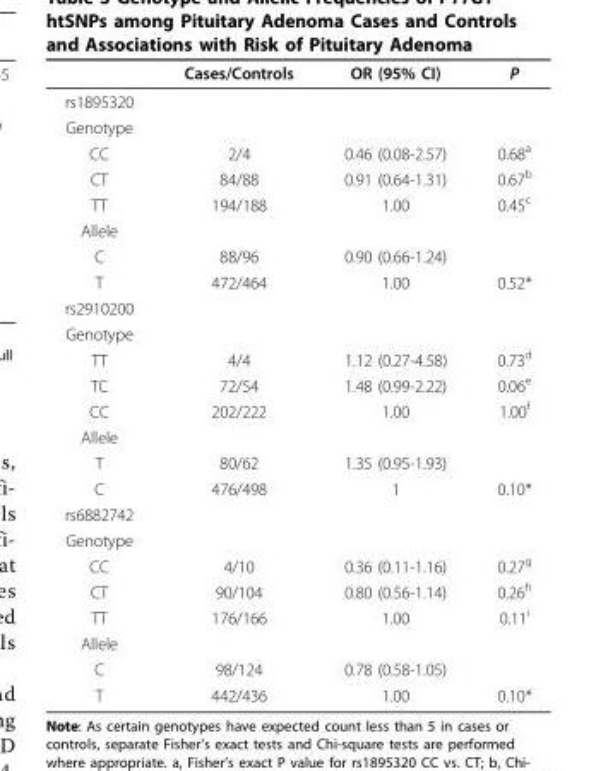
<table><thead><tr><td></td><td>Cases/Controls</td><td>OR (95% CI)</td><td>P</td></tr></thead><tbody><tr><td colspan="4">rs1895320</td></tr><tr><td colspan="4">Genotype</td></tr><tr><td>CC</td><td>2/4</td><td>0.46 (0.08-2.57)</td><td>0.68<sup>a</sup></td></tr><tr><td>CT</td><td>84/88</td><td>0.91 (0.64-1.31)</td><td>0.67<sup>b</sup></td></tr><tr><td>TT</td><td>194/188</td><td>1.00</td><td>0.45<sup>c</sup></td></tr><tr><td colspan="4">Allele</td></tr><tr><td>C</td><td>88/96</td><td>0.90 (0.66-1.24)</td><td></td></tr><tr><td>T</td><td>472/464</td><td>1.00</td><td>0.52*</td></tr><tr><td colspan="4">rs2910200</td></tr><tr><td colspan="4">Genotype</td></tr><tr><td>TT</td><td>4/4</td><td>1.12 (0.27-4.58)</td><td>0.73<sup>d</sup></td></tr><tr><td>TC</td><td>72/54</td><td>1.48 (0.99-2.22)</td><td>0.06<sup>e</sup></td></tr><tr><td>CC</td><td>202/222</td><td>1.00</td><td>1.00<sup>f</sup></td></tr><tr><td colspan="4">Allele</td></tr><tr><td>T</td><td>80/62</td><td>1.35 (0.95-1.93)</td><td></td></tr><tr><td>C</td><td>476/498</td><td>1</td><td>0.10*</td></tr><tr><td colspan="4">rs6882742</td></tr><tr><td colspan="4">Genotype</td></tr><tr><td>CC</td><td>4/10</td><td>0.36 (0.11-1.16)</td><td>0.27<sup>g</sup></td></tr><tr><td>CT</td><td>90/104</td><td>0.80 (0.56-1.14)</td><td>0.26<sup>h</sup></td></tr><tr><td>TT</td><td>176/166</td><td>1.00</td><td>0.11<sup>i</sup></td></tr><tr><td colspan="4">Allele</td></tr><tr><td>C</td><td>98/124</td><td>0.78 (0.58-1.05)</td><td></td></tr><tr><td>T</td><td>442/436</td><td>1.00</td><td>0.10*</td></tr></tbody></table>